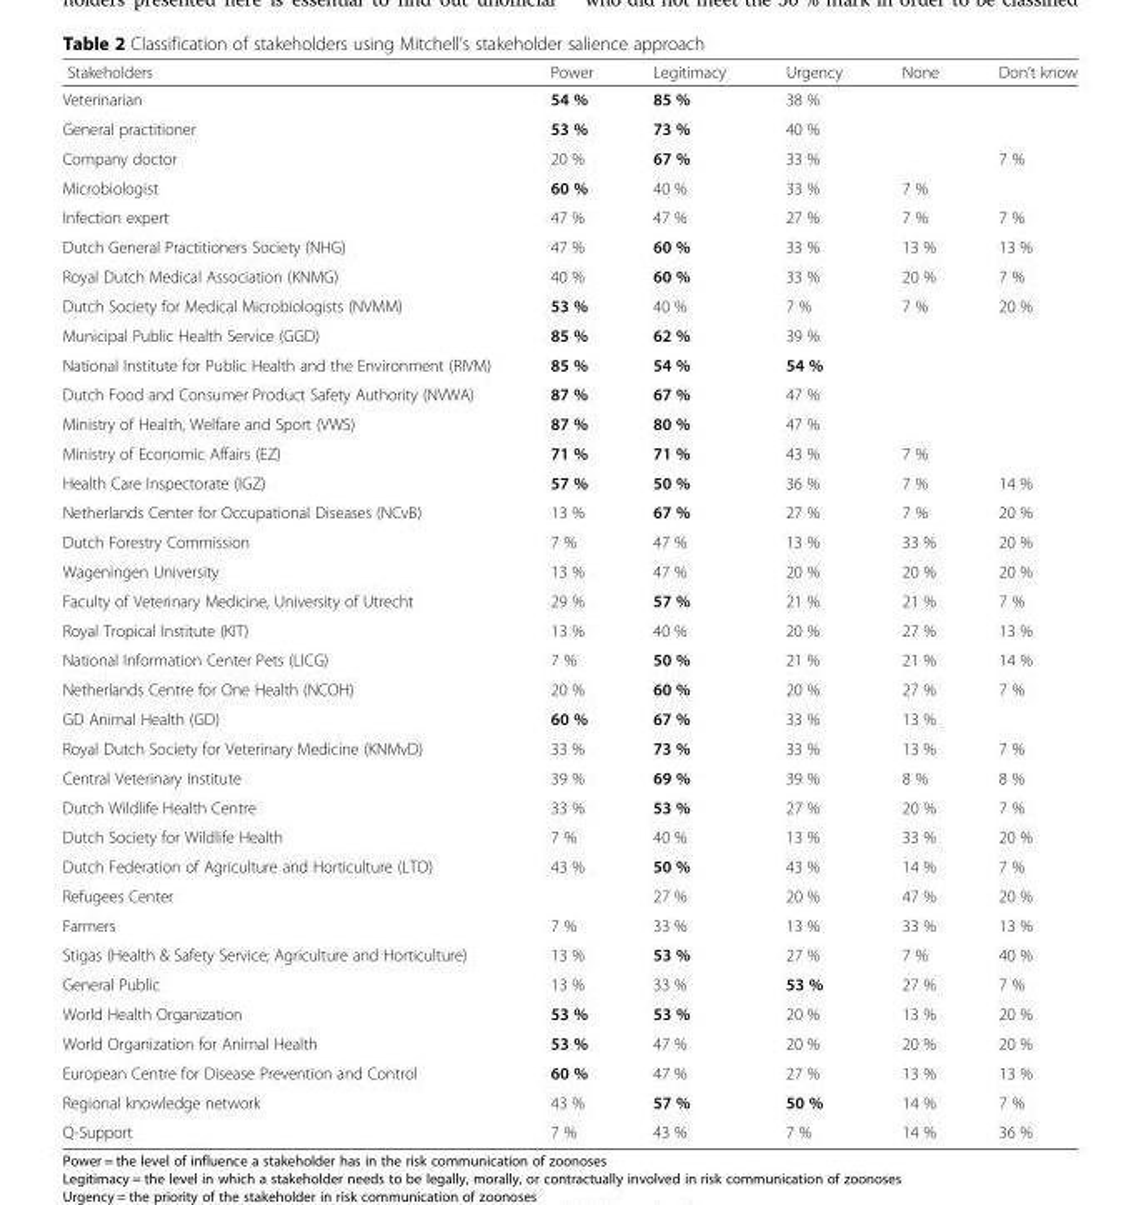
<table><thead><tr><td>Stakeholders</td><td>Power</td><td>Legitimacy</td><td>Urgency</td><td>None</td><td>Don’t know</td></tr></thead><tbody><tr><td>Veterinarian</td><td>54 %</td><td>85 %</td><td>38 %</td><td></td><td></td></tr><tr><td>General practitioner</td><td>53 %</td><td>73 %</td><td>40 %</td><td></td><td></td></tr><tr><td>Company doctor</td><td>20 %</td><td>67 %</td><td>33 %</td><td></td><td>7 %</td></tr><tr><td>Microbiologist</td><td>60 %</td><td>40 %</td><td>33 %</td><td>7 %</td><td></td></tr><tr><td>Infection expert</td><td>47 %</td><td>47 %</td><td>27 %</td><td>7 %</td><td>7 %</td></tr><tr><td>Dutch General Practitioners Society (NHG)</td><td>47 %</td><td>60 %</td><td>33 %</td><td>13 %</td><td>13 %</td></tr><tr><td>Royal Dutch Medical Association (KNMG)</td><td>40 %</td><td>60 %</td><td>33 %</td><td>20 %</td><td>7 %</td></tr><tr><td>Dutch Society for Medical Microbiologists (NVMM)</td><td>53 %</td><td>40 %</td><td>7 %</td><td>7 %</td><td>20 %</td></tr><tr><td>Municipal Public Health Service (GGD)</td><td>85 %</td><td>62 %</td><td>39 %</td><td></td><td></td></tr><tr><td>National Institute for Public Health and the Environment (RIVM)</td><td>85 %</td><td>54 %</td><td>54 %</td><td></td><td></td></tr><tr><td>Dutch Food and Consumer Product Safety Authority (NVWA)</td><td>87 %</td><td>67 %</td><td>47 %</td><td></td><td></td></tr><tr><td>Ministry of Health, Welfare and Sport (VWS)</td><td>87 %</td><td>80 %</td><td>47 %</td><td></td><td></td></tr><tr><td>Ministry of Economic Affairs (EZ)</td><td>71 %</td><td>71 %</td><td>43 %</td><td>7 %</td><td></td></tr><tr><td>Health Care Inspectorate (IGZ)</td><td>57 %</td><td>50 %</td><td>36 %</td><td>7 %</td><td>14 %</td></tr><tr><td>Netherlands Center for Occupational Diseases (NCvB)</td><td>13 %</td><td>67 %</td><td>27 %</td><td>7 %</td><td>20 %</td></tr><tr><td>Dutch Forestry Commission</td><td>7 %</td><td>47 %</td><td>13 %</td><td>33 %</td><td>20 %</td></tr><tr><td>Wageningen University</td><td>13 %</td><td>47 %</td><td>20 %</td><td>20 %</td><td>20 %</td></tr><tr><td>Faculty of Veterinary Medicine, University of Utrecht</td><td>29 %</td><td>57 %</td><td>21 %</td><td>21 %</td><td>7 %</td></tr><tr><td>Royal Tropical Institute (KIT)</td><td>13 %</td><td>40 %</td><td>20 %</td><td>27 %</td><td>13 %</td></tr><tr><td>National Information Center Pets (LICG)</td><td>7 %</td><td>50 %</td><td>21 %</td><td>21 %</td><td>14 %</td></tr><tr><td>Netherlands Centre for One Health (NCOH)</td><td>20 %</td><td>60 %</td><td>20 %</td><td>27 %</td><td>7 %</td></tr><tr><td>GD Animal Health (GD)</td><td>60 %</td><td>67 %</td><td>33 %</td><td>13 %</td><td></td></tr><tr><td>Royal Dutch Society for Veterinary Medicine (KNMvD)</td><td>33 %</td><td>73 %</td><td>33 %</td><td>13 %</td><td>7 %</td></tr><tr><td>Central Veterinary Institute</td><td>39 %</td><td>69 %</td><td>39 %</td><td>8 %</td><td>8 %</td></tr><tr><td>Dutch Wildlife Health Centre</td><td>33 %</td><td>53 %</td><td>27 %</td><td>20 %</td><td>7 %</td></tr><tr><td>Dutch Society for Wildlife Health</td><td>7 %</td><td>40 %</td><td>13 %</td><td>33 %</td><td>20 %</td></tr><tr><td>Dutch Federation of Agriculture and Horticulture (LTO)</td><td>43 %</td><td>50 %</td><td>43 %</td><td>14 %</td><td>7 %</td></tr><tr><td>Refugees Center</td><td></td><td>27 %</td><td>20 %</td><td>47 %</td><td>20 %</td></tr><tr><td>Farmers</td><td>7 %</td><td>33 %</td><td>13 %</td><td>33 %</td><td>13 %</td></tr><tr><td>Stigas (Health &amp; Safety Service; Agriculture and Horticulture)</td><td>13 %</td><td>53 %</td><td>27 %</td><td>7 %</td><td>40 %</td></tr><tr><td>General Public</td><td>13 %</td><td>33 %</td><td>53 %</td><td>27 %</td><td>7 %</td></tr><tr><td>World Health Organization</td><td>53 %</td><td>53 %</td><td>20 %</td><td>13 %</td><td>20 %</td></tr><tr><td>World Organization for Animal Health</td><td>53 %</td><td>47 %</td><td>20 %</td><td>20 %</td><td>20 %</td></tr><tr><td>European Centre for Disease Prevention and Control</td><td>60 %</td><td>47 %</td><td>27 %</td><td>13 %</td><td>13 %</td></tr><tr><td>Regional knowledge network</td><td>43 %</td><td>57 %</td><td>50 %</td><td>14 %</td><td>7 %</td></tr><tr><td>Q-Support</td><td>7 %</td><td>43 %</td><td>7 %</td><td>14 %</td><td>36 %</td></tr></tbody></table>